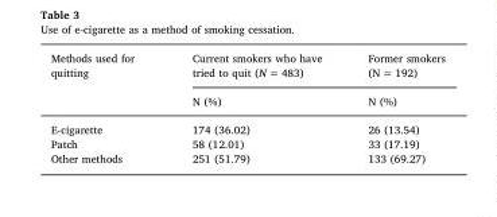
<table><thead><tr><td rowspan="2">Methods used for quitting</td><td rowspan="2">Current smokers who have tried to quit (N = 483) N (%)</td><td rowspan="2">Former smokers (N = 192) N (%)</td></tr><tr></tr></thead><tbody><tr><td>E-cigarette</td><td>174 (36.02)</td><td>26 (13.54)</td></tr><tr><td>Patch</td><td>58 (12.01)</td><td>33 (17.19)</td></tr><tr><td>Other methods</td><td>251 (51.79)</td><td>133 (69.27)</td></tr></tbody></table>